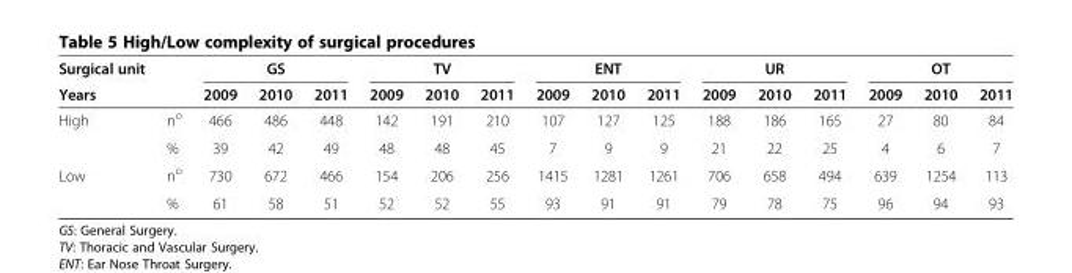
<table><thead><tr><td rowspan="2">Surgical unit Years</td><td rowspan="2"></td><td colspan="3">GS</td><td colspan="3">TV</td><td colspan="3">ENT</td><td colspan="3">UR</td><td colspan="3">OT</td></tr><tr><td>2009</td><td>2010</td><td>2011</td><td>2009</td><td>2010</td><td>2011</td><td>2009</td><td>2010</td><td>2011</td><td>2009</td><td>2010</td><td>2011</td><td>2009</td><td>2010</td><td>2011</td></tr></thead><tbody><tr><td rowspan="2">High</td><td>n<sup>o</sup></td><td>466</td><td>486</td><td>448</td><td>142</td><td>191</td><td>210</td><td>107</td><td>127</td><td>125</td><td>188</td><td>186</td><td>165</td><td>27</td><td>80</td><td>84</td></tr><tr><td>%</td><td>39</td><td>42</td><td>49</td><td>48</td><td>48</td><td>45</td><td>7</td><td>9</td><td>9</td><td>21</td><td>22</td><td>25</td><td>4</td><td>6</td><td>7</td></tr><tr><td rowspan="2">Low</td><td>n<sup>o</sup></td><td>730</td><td>672</td><td>466</td><td>154</td><td>206</td><td>256</td><td>1415</td><td>1281</td><td>1261</td><td>706</td><td>658</td><td>494</td><td>639</td><td>1254</td><td>113</td></tr><tr><td>%</td><td>61</td><td>58</td><td>51</td><td>52</td><td>52</td><td>55</td><td>93</td><td>91</td><td>91</td><td>79</td><td>78</td><td>75</td><td>96</td><td>94</td><td>93</td></tr></tbody></table>